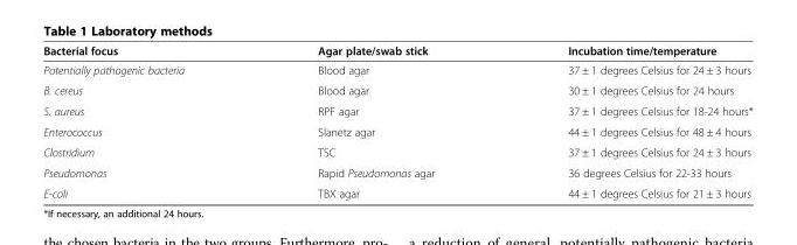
<table><thead><tr><td>Bacterial focus</td><td>Agar plate/swab stick</td><td>Incubation time/temperature</td></tr></thead><tbody><tr><td>Potentially pathogenic bacteria</td><td>Blood agar</td><td>37 ± 1 degrees Celsius for 24 ± 3 hours</td></tr><tr><td>B. cereus</td><td>Blood agar</td><td>30 ± 1 degrees Celsius for 24 hours</td></tr><tr><td>S. aureus</td><td>RPF agar</td><td>37 ± 1 degrees Celsius for 18-24 hours*</td></tr><tr><td>Enterococcus</td><td>Slanetz agar</td><td>44 ± 1 degrees Celsius for 48 ± 4 hours</td></tr><tr><td>Clostridium</td><td>TSC</td><td>37 ± 1 degrees Celsius for 24 ± 3 hours</td></tr><tr><td>Pseudomonas</td><td>Rapid Pseudomonas agar</td><td>36 degrees Celsius for 22-33 hours</td></tr><tr><td>E-coli</td><td>TBX agar</td><td>44 ± 1 degrees Celsius for 21 ± 3 hours</td></tr></tbody></table>